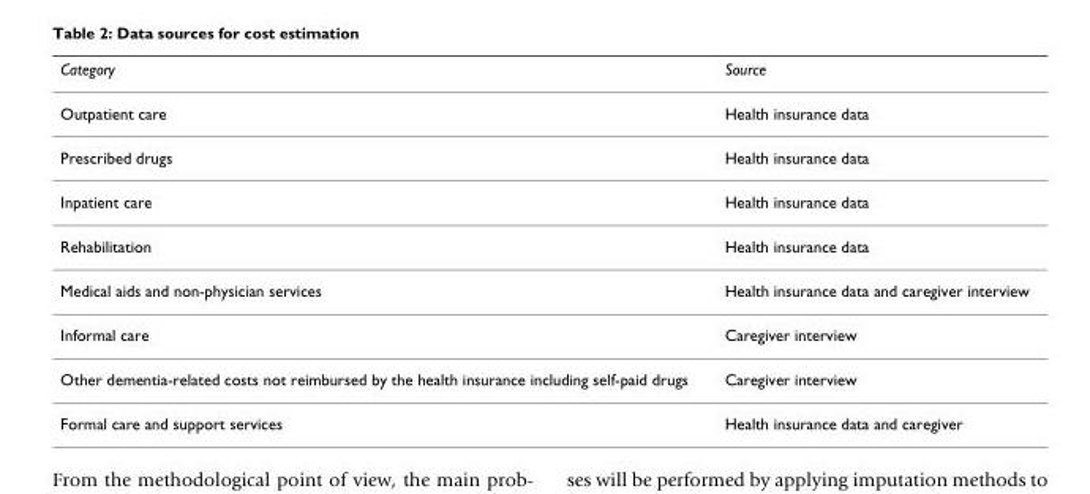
<table><thead><tr><td>Category</td><td>Source</td></tr></thead><tbody><tr><td>Outpatient care</td><td>Health insurance data</td></tr><tr><td>Prescribed drugs</td><td>Health insurance data</td></tr><tr><td>Inpatient care</td><td>Health insurance data</td></tr><tr><td>Rehabilitation</td><td>Health insurance data</td></tr><tr><td>Medical aids and non-physician services</td><td>Health insurance data and caregiver interview</td></tr><tr><td>Informal care</td><td>Caregiver interview</td></tr><tr><td>Other dementia-related costs not reimbursed by the health insurance including self-paid drugs</td><td>Caregiver interview</td></tr><tr><td>Formal care and support services</td><td>Health insurance data and caregiver</td></tr></tbody></table>